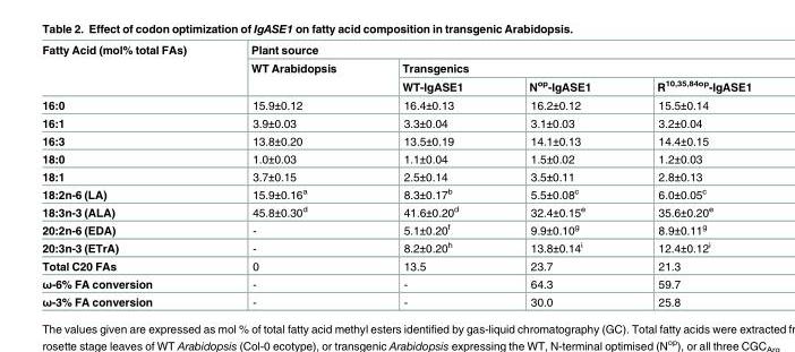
<table><thead><tr><td rowspan="3">Fatty Acid (mol% total FAs)</td><td colspan="4">Plant source</td></tr><tr><td rowspan="2">WT Arabidopsis</td><td colspan="3">Transgenics</td></tr><tr><td>WT-IgASE1</td><td>N<sup>op</sup>-IgASE1</td><td>R<sup>10,35,84op</sup>-IgASE1</td></tr></thead><tbody><tr><td>16:0</td><td>15.9±0.12</td><td>16.4±0.13</td><td>16.2±0.12</td><td>15.5±0.14</td></tr><tr><td>16:1</td><td>3.9±0.03</td><td>3.3±0.04</td><td>3.1±0.03</td><td>3.2±0.04</td></tr><tr><td>16:3</td><td>13.8±0.20</td><td>13.5±0.19</td><td>14.1±0.13</td><td>14.4±0.15</td></tr><tr><td>18:0</td><td>1.0±0.03</td><td>1.1±0.04</td><td>1.5±0.02</td><td>1.2±0.03</td></tr><tr><td>18:1</td><td>3.7±0.15</td><td>2.5±0.14</td><td>3.5±0.11</td><td>2.8±0.13</td></tr><tr><td>18:2n-6 (LA)</td><td>15.9±0.16<sup>a</sup></td><td>8.3±0.17<sup>b</sup></td><td>5.5±0.08<sup>c</sup></td><td>6.0±0.05<sup>c</sup></td></tr><tr><td>18:3n-3 (ALA)</td><td>45.8±0.30<sup>d</sup></td><td>41.6±0.20<sup>d</sup></td><td>32.4±0.15<sup>e</sup></td><td>35.6±0.20<sup>e</sup></td></tr><tr><td>20:2n-6 (EDA)</td><td>-</td><td>5.1±0.20<sup>f</sup></td><td>9.9±0.10<sup>g</sup></td><td>8.9±0.11<sup>g</sup></td></tr><tr><td>20:3n-3 (ETrA)</td><td>-</td><td>8.2±0.20<sup>h</sup></td><td>13.8±0.14<sup>i</sup></td><td>12.4±0.12<sup>i</sup></td></tr><tr><td>Total C20 FAs</td><td>0</td><td>13.5</td><td>23.7</td><td>21.3</td></tr><tr><td>ω-6% FA conversion</td><td>-</td><td>-</td><td>64.3</td><td>59.7</td></tr><tr><td>ω-3% FA conversion</td><td>-</td><td>-</td><td>30.0</td><td>25.8</td></tr></tbody></table>